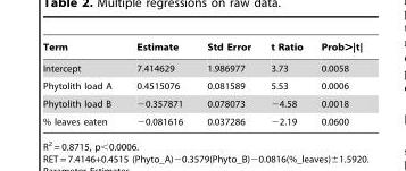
<table><thead><tr><td>Term</td><td>Estimate</td><td>Std Error</td><td>t Ratio</td><td>Prob&gt;|t|</td></tr></thead><tbody><tr><td>Intercept</td><td>7.414629</td><td>1.986977</td><td>3.73</td><td>0.0058</td></tr><tr><td>Phytolith load A</td><td>0.4515076</td><td>0.081589</td><td>5.53</td><td>0.0006</td></tr><tr><td>Phytolith load B</td><td>−0.357871</td><td>0.078073</td><td>−4.58</td><td>0.0018</td></tr><tr><td>% leaves eaten</td><td>−0.081616</td><td>0.037286</td><td>−2.19</td><td>0.0600</td></tr></tbody></table>